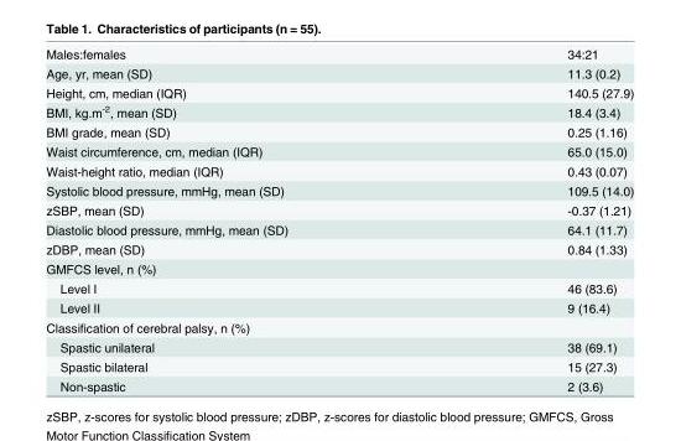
<table><tbody><tr><td>Males:females</td><td>34:21</td></tr><tr><td>Age, yr, mean (SD)</td><td>11.3 (0.2)</td></tr><tr><td>Height, cm, median (IQR)</td><td>140.5 (27.9)</td></tr><tr><td>BMI, kg.m<sup>-2</sup>, mean (SD)</td><td>18.4 (3.4)</td></tr><tr><td>BMI grade, mean (SD)</td><td>0.25 (1.16)</td></tr><tr><td>Waist circumference, cm, median (IQR)</td><td>65.0 (15.0)</td></tr><tr><td>Waist-height ratio, median (IQR)</td><td>0.43 (0.07)</td></tr><tr><td>Systolic blood pressure, mmHg, mean (SD)</td><td>109.5 (14.0)</td></tr><tr><td>zSBP, mean (SD)</td><td>-0.37 (1.21)</td></tr><tr><td>Diastolic blood pressure, mmHg, mean (SD)</td><td>64.1 (11.7)</td></tr><tr><td>zDBP, mean (SD)</td><td>0.84 (1.33)</td></tr><tr><td colspan="2">GMFCS level, n (%)</td></tr><tr><td>Level I</td><td>46 (83.6)</td></tr><tr><td>Level II</td><td>9 (16.4)</td></tr><tr><td colspan="2">Classification of cerebral palsy, n (%)</td></tr><tr><td>Spastic unilateral</td><td>38 (69.1)</td></tr><tr><td>Spastic bilateral</td><td>15 (27.3)</td></tr><tr><td>Non-spastic</td><td>2 (3.6)</td></tr></tbody></table>